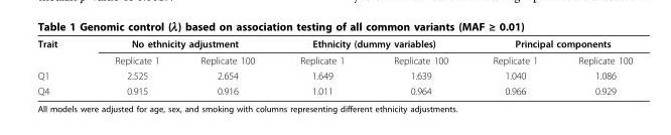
<table><tbody><tr><td rowspan="2">Trait</td><td colspan="2">No ethnicity adjustment</td><td colspan="2">Ethnicity (dummy variables)</td><td colspan="2">Principal components</td></tr><tr><td>Replicate 1</td><td>Replicate 100</td><td>Replicate 1</td><td>Replicate 100</td><td>Replicate 1</td><td>Replicate 100</td></tr><tr><td>Q1</td><td>2.525</td><td>2.654</td><td>1.649</td><td>1.639</td><td>1.040</td><td>1.086</td></tr><tr><td>Q4</td><td>0.915</td><td>0.916</td><td>1.011</td><td>0.964</td><td>0.966</td><td>0.929</td></tr></tbody></table>